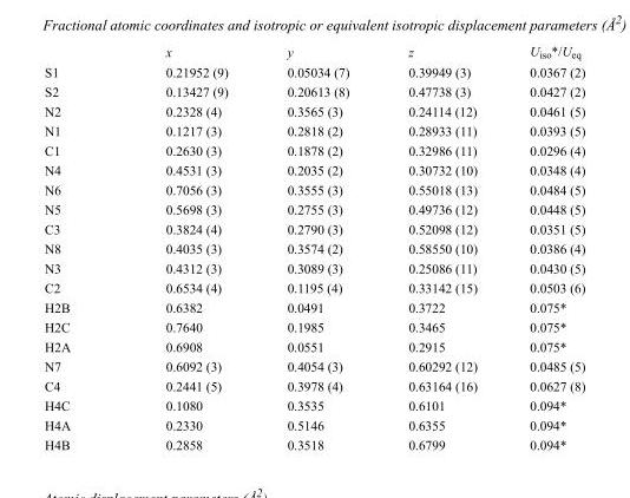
<table><thead><tr><td></td><td>x</td><td>y</td><td>z</td><td>U<sub>iso</sub>*/U<sub>eq</sub></td></tr></thead><tbody><tr><td>S1</td><td>0.21952 (9)</td><td>0.05034 (7)</td><td>0.39949 (3)</td><td>0.0367 (2)</td></tr><tr><td>S2</td><td>0.13427 (9)</td><td>0.20613 (8)</td><td>0.47738 (3)</td><td>0.0427 (2)</td></tr><tr><td>N2</td><td>0.2328 (4)</td><td>0.3565 (3)</td><td>0.24114 (12)</td><td>0.0461 (5)</td></tr><tr><td>N1</td><td>0.1217 (3)</td><td>0.2818 (2)</td><td>0.28933 (11)</td><td>0.0393 (5)</td></tr><tr><td>C1</td><td>0.2630 (3)</td><td>0.1878 (2)</td><td>0.32986 (11)</td><td>0.0296 (4)</td></tr><tr><td>N4</td><td>0.4531 (3)</td><td>0.2035 (2)</td><td>0.30732 (10)</td><td>0.0348 (4)</td></tr><tr><td>N6</td><td>0.7056 (3)</td><td>0.3555 (3)</td><td>0.55018 (13)</td><td>0.0484 (5)</td></tr><tr><td>N5</td><td>0.5698 (3)</td><td>0.2755 (3)</td><td>0.49736 (12)</td><td>0.0448 (5)</td></tr><tr><td>C3</td><td>0.3824 (4)</td><td>0.2790 (3)</td><td>0.52098 (12)</td><td>0.0351 (5)</td></tr><tr><td>N8</td><td>0.4035 (3)</td><td>0.3574 (2)</td><td>0.58550 (10)</td><td>0.0386 (4)</td></tr><tr><td>N3</td><td>0.4312 (3)</td><td>0.3089 (3)</td><td>0.25086 (11)</td><td>0.0430 (5)</td></tr><tr><td>C2</td><td>0.6534 (4)</td><td>0.1195 (4)</td><td>0.33142 (15)</td><td>0.0503 (6)</td></tr><tr><td>H2B</td><td>0.6382</td><td>0.0491</td><td>0.3722</td><td>0.075*</td></tr><tr><td>H2C</td><td>0.7640</td><td>0.1985</td><td>0.3465</td><td>0.075*</td></tr><tr><td>H2A</td><td>0.6908</td><td>0.0551</td><td>0.2915</td><td>0.075*</td></tr><tr><td>N7</td><td>0.6092 (3)</td><td>0.4054 (3)</td><td>0.60292 (12)</td><td>0.0485 (5)</td></tr><tr><td>C4</td><td>0.2441 (5)</td><td>0.3978 (4)</td><td>0.63164 (16)</td><td>0.0627 (8)</td></tr><tr><td>H4C</td><td>0.1080</td><td>0.3535</td><td>0.6101</td><td>0.094*</td></tr><tr><td>H4A</td><td>0.2330</td><td>0.5146</td><td>0.6355</td><td>0.094*</td></tr><tr><td>H4B</td><td>0.2858</td><td>0.3518</td><td>0.6799</td><td>0.094*</td></tr></tbody></table>